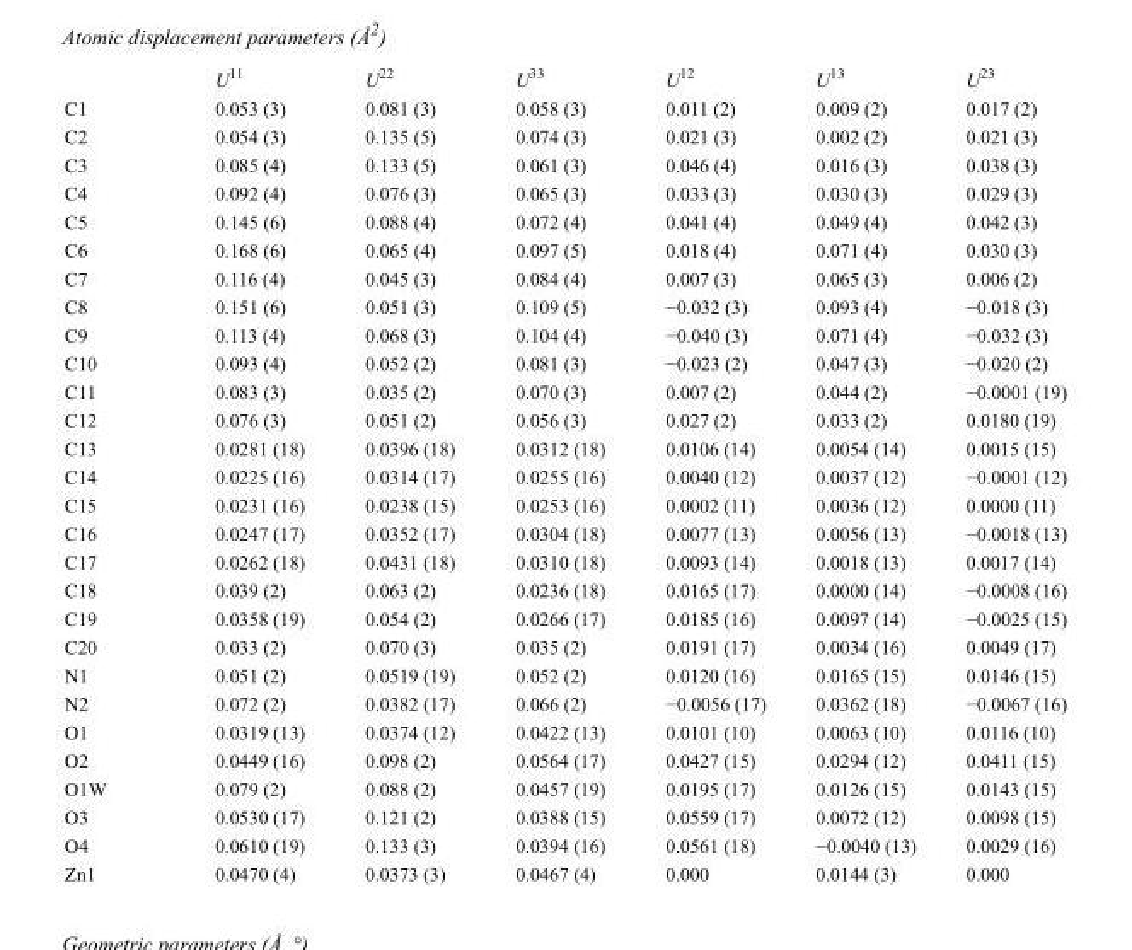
<table><thead><tr><td></td><td>U<sup>11</sup></td><td>U<sup>22</sup></td><td>U<sup>33</sup></td><td>U<sup>12</sup></td><td>U<sup>13</sup></td><td>U<sup>23</sup></td></tr></thead><tbody><tr><td>C1</td><td>0.053 (3)</td><td>0.081 (3)</td><td>0.058 (3)</td><td>0.011 (2)</td><td>0.009 (2)</td><td>0.017 (2)</td></tr><tr><td>C2</td><td>0.054 (3)</td><td>0.135 (5)</td><td>0.074 (3)</td><td>0.021 (3)</td><td>0.002 (2)</td><td>0.021 (3)</td></tr><tr><td>C3</td><td>0.085 (4)</td><td>0.133 (5)</td><td>0.061 (3)</td><td>0.046 (4)</td><td>0.016 (3)</td><td>0.038 (3)</td></tr><tr><td>C4</td><td>0.092 (4)</td><td>0.076 (3)</td><td>0.065 (3)</td><td>0.033 (3)</td><td>0.030 (3)</td><td>0.029 (3)</td></tr><tr><td>C5</td><td>0.145 (6)</td><td>0.088 (4)</td><td>0.072 (4)</td><td>0.041 (4)</td><td>0.049 (4)</td><td>0.042 (3)</td></tr><tr><td>C6</td><td>0.168 (6)</td><td>0.065 (4)</td><td>0.097 (5)</td><td>0.018 (4)</td><td>0.071 (4)</td><td>0.030 (3)</td></tr><tr><td>C7</td><td>0.116 (4)</td><td>0.045 (3)</td><td>0.084 (4)</td><td>0.007 (3)</td><td>0.065 (3)</td><td>0.006 (2)</td></tr><tr><td>C8</td><td>0.151 (6)</td><td>0.051 (3)</td><td>0.109 (5)</td><td>−0.032 (3)</td><td>0.093 (4)</td><td>−0.018 (3)</td></tr><tr><td>C9</td><td>0.113 (4)</td><td>0.068 (3)</td><td>0.104 (4)</td><td>−0.040 (3)</td><td>0.071 (4)</td><td>−0.032 (3)</td></tr><tr><td>C10</td><td>0.093 (4)</td><td>0.052 (2)</td><td>0.081 (3)</td><td>−0.023 (2)</td><td>0.047 (3)</td><td>−0.020 (2)</td></tr><tr><td>C11</td><td>0.083 (3)</td><td>0.035 (2)</td><td>0.070 (3)</td><td>0.007 (2)</td><td>0.044 (2)</td><td>−0.0001 (19)</td></tr><tr><td>C12</td><td>0.076 (3)</td><td>0.051 (2)</td><td>0.056 (3)</td><td>0.027 (2)</td><td>0.033 (2)</td><td>0.0180 (19)</td></tr><tr><td>C13</td><td>0.0281 (18)</td><td>0.0396 (18)</td><td>0.0312 (18)</td><td>0.0106 (14)</td><td>0.0054 (14)</td><td>0.0015 (15)</td></tr><tr><td>C14</td><td>0.0225 (16)</td><td>0.0314 (17)</td><td>0.0255 (16)</td><td>0.0040 (12)</td><td>0.0037 (12)</td><td>−0.0001 (12)</td></tr><tr><td>C15</td><td>0.0231 (16)</td><td>0.0238 (15)</td><td>0.0253 (16)</td><td>0.0002 (11)</td><td>0.0036 (12)</td><td>0.0000 (11)</td></tr><tr><td>C16</td><td>0.0247 (17)</td><td>0.0352 (17)</td><td>0.0304 (18)</td><td>0.0077 (13)</td><td>0.0056 (13)</td><td>−0.0018 (13)</td></tr><tr><td>C17</td><td>0.0262 (18)</td><td>0.0431 (18)</td><td>0.0310 (18)</td><td>0.0093 (14)</td><td>0.0018 (13)</td><td>0.0017 (14)</td></tr><tr><td>C18</td><td>0.039 (2)</td><td>0.063 (2)</td><td>0.0236 (18)</td><td>0.0165 (17)</td><td>0.0000 (14)</td><td>−0.0008 (16)</td></tr><tr><td>C19</td><td>0.0358 (19)</td><td>0.054 (2)</td><td>0.0266 (17)</td><td>0.0185 (16)</td><td>0.0097 (14)</td><td>−0.0025 (15)</td></tr><tr><td>C20</td><td>0.033 (2)</td><td>0.070 (3)</td><td>0.035 (2)</td><td>0.0191 (17)</td><td>0.0034 (16)</td><td>0.0049 (17)</td></tr><tr><td>N1</td><td>0.051 (2)</td><td>0.0519 (19)</td><td>0.052 (2)</td><td>0.0120 (16)</td><td>0.0165 (15)</td><td>0.0146 (15)</td></tr><tr><td>N2</td><td>0.072 (2)</td><td>0.0382 (17)</td><td>0.066 (2)</td><td>−0.0056 (17)</td><td>0.0362 (18)</td><td>−0.0067 (16)</td></tr><tr><td>O1</td><td>0.0319 (13)</td><td>0.0374 (12)</td><td>0.0422 (13)</td><td>0.0101 (10)</td><td>0.0063 (10)</td><td>0.0116 (10)</td></tr><tr><td>O2</td><td>0.0449 (16)</td><td>0.098 (2)</td><td>0.0564 (17)</td><td>0.0427 (15)</td><td>0.0294 (12)</td><td>0.0411 (15)</td></tr><tr><td>O1W</td><td>0.079 (2)</td><td>0.088 (2)</td><td>0.0457 (19)</td><td>0.0195 (17)</td><td>0.0126 (15)</td><td>0.0143 (15)</td></tr><tr><td>O3</td><td>0.0530 (17)</td><td>0.121 (2)</td><td>0.0388 (15)</td><td>0.0559 (17)</td><td>0.0072 (12)</td><td>0.0098 (15)</td></tr><tr><td>O4</td><td>0.0610 (19)</td><td>0.133 (3)</td><td>0.0394 (16)</td><td>0.0561 (18)</td><td>−0.0040 (13)</td><td>0.0029 (16)</td></tr><tr><td>Zn1</td><td>0.0470 (4)</td><td>0.0373 (3)</td><td>0.0467 (4)</td><td>0.000</td><td>0.0144 (3)</td><td>0.000</td></tr></tbody></table>